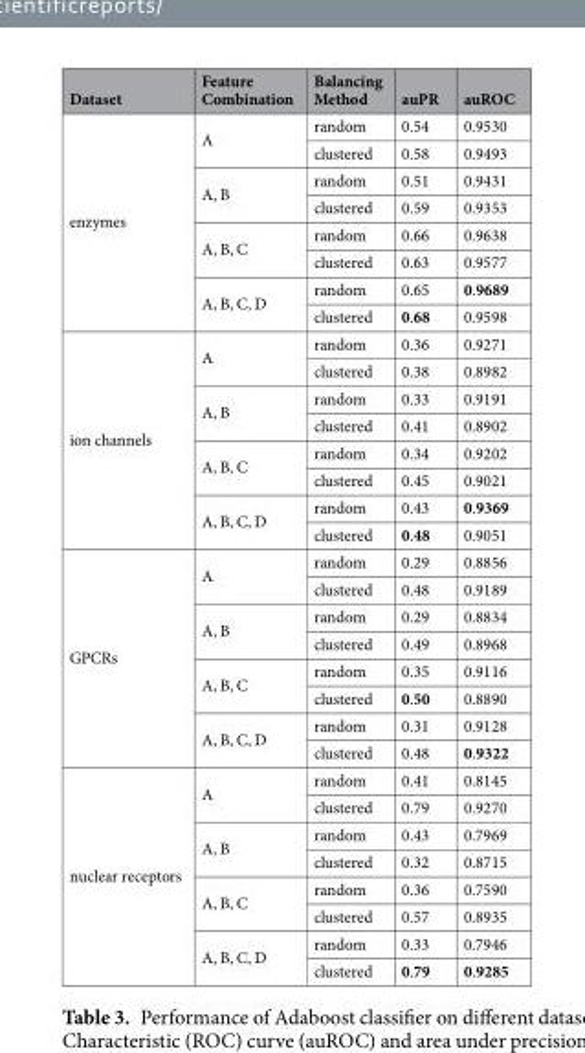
<table><thead><tr><td>Dataset</td><td>Feature Combination</td><td>Balancing Method</td><td>auPR</td><td>auROC</td></tr></thead><tbody><tr><td rowspan="8">enzymes</td><td rowspan="2">A</td><td>random</td><td>0.54</td><td>0.9530</td></tr><tr><td>clustered</td><td>0.58</td><td>0.9493</td></tr><tr><td rowspan="2">A, B</td><td>random</td><td>0.51</td><td>0.9431</td></tr><tr><td>clustered</td><td>0.59</td><td>0.9353</td></tr><tr><td rowspan="2">A, B, C</td><td>random</td><td>0.66</td><td>0.9638</td></tr><tr><td>clustered</td><td>0.63</td><td>0.9577</td></tr><tr><td rowspan="2">A, B, C, D</td><td>random</td><td>0.65</td><td>0.9689</td></tr><tr><td>clustered</td><td>0.68</td><td>0.9598</td></tr><tr><td rowspan="8">ion channels</td><td rowspan="2">A</td><td>random</td><td>0.36</td><td>0.9271</td></tr><tr><td>clustered</td><td>0.38</td><td>0.8982</td></tr><tr><td rowspan="2">A, B</td><td>random</td><td>0.33</td><td>0.9191</td></tr><tr><td>clustered</td><td>0.41</td><td>0.8902</td></tr><tr><td rowspan="2">A, B, C</td><td>random</td><td>0.34</td><td>0.9202</td></tr><tr><td>clustered</td><td>0.45</td><td>0.9021</td></tr><tr><td rowspan="2">A, B, C, D</td><td>random</td><td>0.43</td><td>0.9369</td></tr><tr><td>clustered</td><td>0.48</td><td>0.9051</td></tr><tr><td rowspan="8">GPCRs</td><td rowspan="2">A</td><td>random</td><td>0.29</td><td>0.8856</td></tr><tr><td>clustered</td><td>0.48</td><td>0.9189</td></tr><tr><td rowspan="2">A, B</td><td>random</td><td>0.29</td><td>0.8834</td></tr><tr><td>clustered</td><td>0.49</td><td>0.8968</td></tr><tr><td rowspan="2">A, B, C</td><td>random</td><td>0.35</td><td>0.9116</td></tr><tr><td>clustered</td><td>0.50</td><td>0.8890</td></tr><tr><td rowspan="2">A, B, C, D</td><td>random</td><td>0.31</td><td>0.9128</td></tr><tr><td>clustered</td><td>0.48</td><td>0.9322</td></tr><tr><td rowspan="8">nuclear receptors</td><td rowspan="2">A</td><td>random</td><td>0.41</td><td>0.8145</td></tr><tr><td>clustered</td><td>0.79</td><td>0.9270</td></tr><tr><td rowspan="2">A, B</td><td>random</td><td>0.43</td><td>0.7969</td></tr><tr><td>clustered</td><td>0.32</td><td>0.8715</td></tr><tr><td rowspan="2">A, B, C</td><td>random</td><td>0.36</td><td>0.7590</td></tr><tr><td>clustered</td><td>0.57</td><td>0.8935</td></tr><tr><td rowspan="2">A, B, C, D</td><td>random</td><td>0.33</td><td>0.7946</td></tr><tr><td>clustered</td><td>0.79</td><td>0.9285</td></tr></tbody></table>